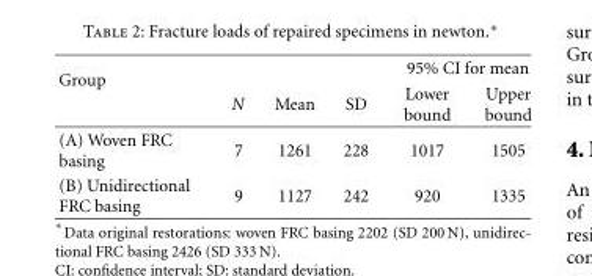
<table><thead><tr><td rowspan="2">Group</td><td rowspan="2">N</td><td rowspan="2">Mean</td><td rowspan="2">SD</td><td colspan="2">95% CI for mean</td></tr><tr><td>Lower bound</td><td>Upper bound</td></tr></thead><tbody><tr><td>(A) Woven FRC basing</td><td>7</td><td>1261</td><td>228</td><td>1017</td><td>1505</td></tr><tr><td>(B) Unidirectional FRC basing</td><td>9</td><td>1127</td><td>242</td><td>920</td><td>1335</td></tr></tbody></table>